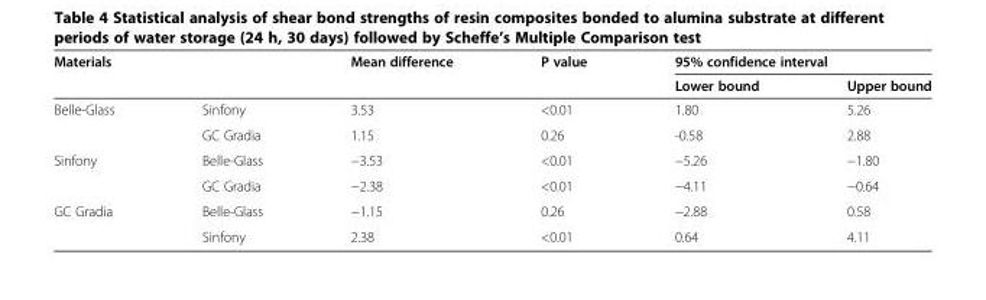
<table><thead><tr><td colspan="2">Materials</td><td rowspan="2">Mean difference</td><td rowspan="2">P value</td><td colspan="2">95% confidence interval</td></tr><tr><td></td><td></td><td>Lower bound</td><td>Upper bound</td></tr></thead><tbody><tr><td rowspan="2">Belle-Glass</td><td>Sinfony</td><td>3.53</td><td>&lt;0.01</td><td>1.80</td><td>5.26</td></tr><tr><td>GC Gradia</td><td>1.15</td><td>0.26</td><td>-0.58</td><td>2.88</td></tr><tr><td rowspan="2">Sinfony</td><td>Belle-Glass</td><td>−3.53</td><td>&lt;0.01</td><td>−5.26</td><td>−1.80</td></tr><tr><td>GC Gradia</td><td>−2.38</td><td>&lt;0.01</td><td>−4.11</td><td>−0.64</td></tr><tr><td rowspan="2">GC Gradia</td><td>Belle-Glass</td><td>−1.15</td><td>0.26</td><td>−2.88</td><td>0.58</td></tr><tr><td>Sinfony</td><td>2.38</td><td>&lt;0.01</td><td>0.64</td><td>4.11</td></tr></tbody></table>